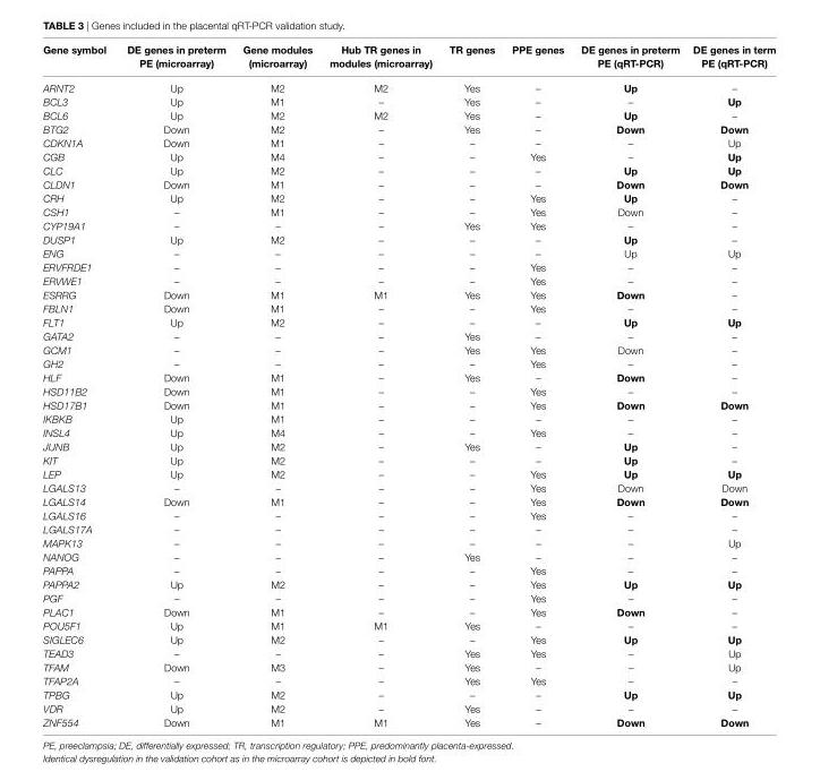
<table><thead><tr><td>gene symbol</td><td>De genes in preterm Pe (microarray)</td><td>gene modules (microarray)</td><td>hub Tr genes in modules (microarray)</td><td>Tr genes</td><td>PPe genes</td><td>De genes in preterm Pe (qrT-Pcr)</td><td>De genes in term Pe (qrT-Pcr)</td></tr></thead><tbody><tr><td>ARNT2</td><td>Up</td><td>M2</td><td>M2</td><td>Yes</td><td>–</td><td>Up</td><td>–</td></tr><tr><td>BCL3</td><td>Up</td><td>M1</td><td>–</td><td>Yes</td><td>–</td><td>–</td><td>Up</td></tr><tr><td>BCL6</td><td>Up</td><td>M2</td><td>M2</td><td>Yes</td><td>–</td><td>Up</td><td>–</td></tr><tr><td>BTG2</td><td>Down</td><td>M2</td><td>–</td><td>Yes</td><td>–</td><td>Down</td><td>Down</td></tr><tr><td>CDKN1A</td><td>Down</td><td>M1</td><td>–</td><td>–</td><td>–</td><td>–</td><td>Up</td></tr><tr><td>CGB</td><td>Up</td><td>M4</td><td>–</td><td>–</td><td>Yes</td><td>–</td><td>Up</td></tr><tr><td>CLC</td><td>Up</td><td>M2</td><td>–</td><td>–</td><td>–</td><td>Up</td><td>Up</td></tr><tr><td>CLDN1</td><td>Down</td><td>M1</td><td>–</td><td>–</td><td>–</td><td>Down</td><td>Down</td></tr><tr><td>CRH</td><td>Up</td><td>M2</td><td>–</td><td>–</td><td>Yes</td><td>Up</td><td>–</td></tr><tr><td>CSH1</td><td>–</td><td>M1</td><td>–</td><td>–</td><td>Yes</td><td>Down</td><td>–</td></tr><tr><td>CYP19A1</td><td>–</td><td>–</td><td>–</td><td>Yes</td><td>Yes</td><td>–</td><td>–</td></tr><tr><td>DUSP1</td><td>Up</td><td>M2</td><td>–</td><td>–</td><td>–</td><td>Up</td><td>–</td></tr><tr><td>ENG</td><td>–</td><td>–</td><td>–</td><td>–</td><td>–</td><td>Up</td><td>Up</td></tr><tr><td>ERVFRDE1</td><td>–</td><td>–</td><td>–</td><td>–</td><td>Yes</td><td>–</td><td>–</td></tr><tr><td>ERVWE1</td><td>–</td><td>–</td><td>–</td><td>–</td><td>Yes</td><td>–</td><td>–</td></tr><tr><td>ESRRG</td><td>Down</td><td>M1</td><td>M1</td><td>Yes</td><td>Yes</td><td>Down</td><td>–</td></tr><tr><td>FBLN1</td><td>Down</td><td>M1</td><td>–</td><td>–</td><td>Yes</td><td>–</td><td>–</td></tr><tr><td>FLT1</td><td>Up</td><td>M2</td><td>–</td><td>–</td><td>–</td><td>Up</td><td>Up</td></tr><tr><td>GATA2</td><td>–</td><td>–</td><td>–</td><td>Yes</td><td>–</td><td>–</td><td>–</td></tr><tr><td>GCM1</td><td>–</td><td>–</td><td>–</td><td>Yes</td><td>Yes</td><td>Down</td><td>–</td></tr><tr><td>GH2</td><td>–</td><td>–</td><td>–</td><td>–</td><td>Yes</td><td>–</td><td>–</td></tr><tr><td>HLF</td><td>Down</td><td>M1</td><td>–</td><td>Yes</td><td>–</td><td>Down</td><td>–</td></tr><tr><td>HSD11B2</td><td>Down</td><td>M1</td><td>–</td><td>–</td><td>Yes</td><td>–</td><td>–</td></tr><tr><td>HSD17B1</td><td>Down</td><td>M1</td><td>–</td><td>–</td><td>Yes</td><td>Down</td><td>Down</td></tr><tr><td>IKBKB</td><td>Up</td><td>M1</td><td>–</td><td>–</td><td>–</td><td>–</td><td>–</td></tr><tr><td>INSL4</td><td>Up</td><td>M4</td><td>–</td><td>–</td><td>Yes</td><td>–</td><td>–</td></tr><tr><td>JUNB</td><td>Up</td><td>M2</td><td>–</td><td>Yes</td><td>–</td><td>Up</td><td>–</td></tr><tr><td>KIT</td><td>Up</td><td>M2</td><td>–</td><td>–</td><td>–</td><td>Up</td><td>–</td></tr><tr><td>LEP</td><td>Up</td><td>M2</td><td>–</td><td>–</td><td>Yes</td><td>Up</td><td>Up</td></tr><tr><td>LGALS13</td><td>–</td><td>–</td><td>–</td><td>–</td><td>Yes</td><td>Down</td><td>Down</td></tr><tr><td>LGALS14</td><td>Down</td><td>M1</td><td>–</td><td>–</td><td>Yes</td><td>Down</td><td>Down</td></tr><tr><td>LGALS16</td><td>–</td><td>–</td><td>–</td><td>–</td><td>Yes</td><td>–</td><td>–</td></tr><tr><td>LGALS17A</td><td>–</td><td>–</td><td>–</td><td>–</td><td>–</td><td>–</td><td>–</td></tr><tr><td>MAPK13</td><td>–</td><td>–</td><td>–</td><td>–</td><td>–</td><td>–</td><td>Up</td></tr><tr><td>NANOG</td><td>–</td><td>–</td><td>–</td><td>Yes</td><td>–</td><td>–</td><td>–</td></tr><tr><td>PAPPA</td><td>–</td><td>–</td><td>–</td><td>–</td><td>Yes</td><td>–</td><td>–</td></tr><tr><td>PAPPA2</td><td>Up</td><td>M2</td><td>–</td><td>–</td><td>Yes</td><td>Up</td><td>Up</td></tr><tr><td>PGF</td><td>–</td><td>–</td><td>–</td><td>–</td><td>Yes</td><td>–</td><td>–</td></tr><tr><td>PLAC1</td><td>Down</td><td>M1</td><td>–</td><td>–</td><td>Yes</td><td>Down</td><td>–</td></tr><tr><td>POU5F1</td><td>Up</td><td>M1</td><td>M1</td><td>Yes</td><td>–</td><td>–</td><td>–</td></tr><tr><td>SIGLEC6</td><td>Up</td><td>M2</td><td>–</td><td>–</td><td>Yes</td><td>Up</td><td>Up</td></tr><tr><td>TEAD3</td><td>–</td><td>–</td><td>–</td><td>Yes</td><td>Yes</td><td>–</td><td>Up</td></tr><tr><td>TFAM</td><td>Down</td><td>M3</td><td>–</td><td>Yes</td><td>–</td><td>–</td><td>Up</td></tr><tr><td>TFAP2A</td><td>–</td><td>–</td><td>–</td><td>Yes</td><td>Yes</td><td>–</td><td>–</td></tr><tr><td>TPBG</td><td>Up</td><td>M2</td><td>–</td><td>–</td><td>–</td><td>Up</td><td>Up</td></tr><tr><td>VDR</td><td>Up</td><td>M2</td><td>–</td><td>Yes</td><td>–</td><td>–</td><td>–</td></tr><tr><td>ZNF554</td><td>Down</td><td>M1</td><td>M1</td><td>Yes</td><td>–</td><td>Down</td><td>Down</td></tr></tbody></table>